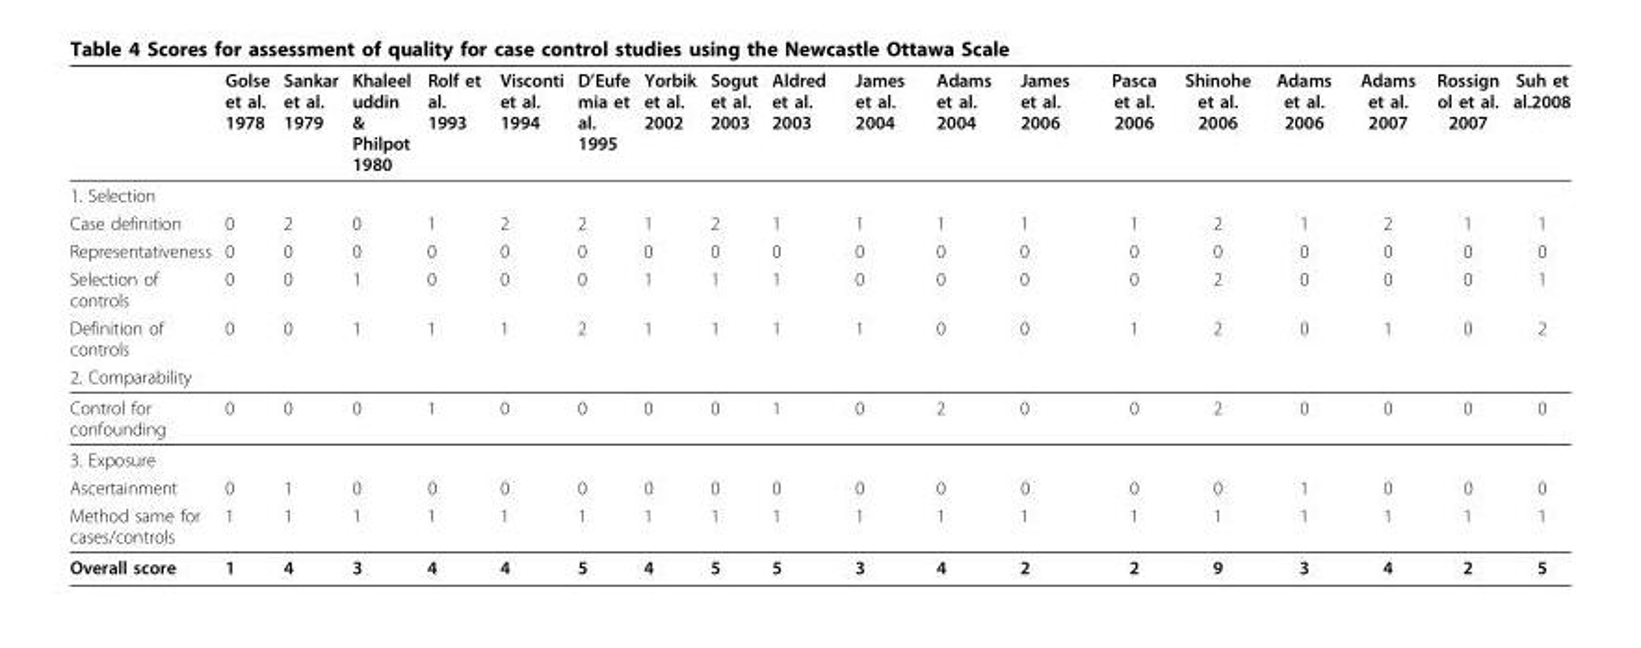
<table><thead><tr><td></td><td>Golse et al. 1978</td><td>Sankar et al. 1979</td><td>Khaleel uddin &amp; Philpot 1980</td><td>Rolf et al. 1993</td><td>Visconti et al. 1994</td><td>D’Eufe mia et al. 1995</td><td>Yorbik et al. 2002</td><td>Sogut et al. 2003</td><td>Aldred et al. 2003</td><td>James et al. 2004</td><td>Adams et al. 2004</td><td>James et al. 2006</td><td>Pasca et al. 2006</td><td>Shinohe et al. 2006</td><td>Adams et al. 2006</td><td>Adams et al. 2007</td><td>Rossign ol et al. 2007</td><td>Suh et al.2008</td></tr></thead><tbody><tr><td colspan="19">1. Selection</td></tr><tr><td>Case definition</td><td>0</td><td>2</td><td>0</td><td>1</td><td>2</td><td>2</td><td>1</td><td>2</td><td>1</td><td>1</td><td>1</td><td>1</td><td>1</td><td>2</td><td>1</td><td>2</td><td>1</td><td>1</td></tr><tr><td>Representativeness</td><td>0</td><td>0</td><td>0</td><td>0</td><td>0</td><td>0</td><td>0</td><td>0</td><td>0</td><td>0</td><td>0</td><td>0</td><td>0</td><td>0</td><td>0</td><td>0</td><td>0</td><td>0</td></tr><tr><td>Selection of controls</td><td>0</td><td>0</td><td>1</td><td>0</td><td>0</td><td>0</td><td>1</td><td>1</td><td>1</td><td>0</td><td>0</td><td>0</td><td>0</td><td>2</td><td>0</td><td>0</td><td>0</td><td>1</td></tr><tr><td>Definition of controls</td><td>0</td><td>0</td><td>1</td><td>1</td><td>1</td><td>2</td><td>1</td><td>1</td><td>1</td><td>1</td><td>0</td><td>0</td><td>1</td><td>2</td><td>0</td><td>1</td><td>0</td><td>2</td></tr><tr><td colspan="19">2. Comparability</td></tr><tr><td>Control for confounding</td><td>0</td><td>0</td><td>0</td><td>1</td><td>0</td><td>0</td><td>0</td><td>0</td><td>1</td><td>0</td><td>2</td><td>0</td><td>0</td><td>2</td><td>0</td><td>0</td><td>0</td><td>0</td></tr><tr><td colspan="19">3. Exposure</td></tr><tr><td>Ascertainment</td><td>0</td><td>1</td><td>0</td><td>0</td><td>0</td><td>0</td><td>0</td><td>0</td><td>0</td><td>0</td><td>0</td><td>0</td><td>0</td><td>0</td><td>1</td><td>0</td><td>0</td><td>0</td></tr><tr><td>Method same for cases/controls</td><td>1</td><td>1</td><td>1</td><td>1</td><td>1</td><td>1</td><td>1</td><td>1</td><td>1</td><td>1</td><td>1</td><td>1</td><td>1</td><td>1</td><td>1</td><td>1</td><td>1</td><td>1</td></tr><tr><td>Overall score</td><td>1</td><td>4</td><td>3</td><td>4</td><td>4</td><td>5</td><td>4</td><td>5</td><td>5</td><td>3</td><td>4</td><td>2</td><td>2</td><td>9</td><td>3</td><td>4</td><td>2</td><td>5</td></tr></tbody></table>